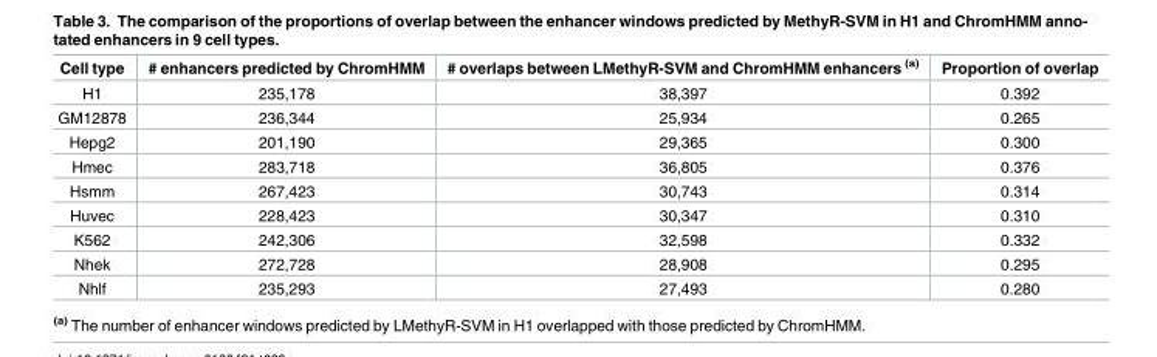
<table><thead><tr><td>Cell type</td><td># enhancers predicted by ChromHMM</td><td># overlaps between LMethyR-SVM and ChromHMM enhancers <sup>(a)</sup></td><td>Proportion of overlap</td></tr></thead><tbody><tr><td>H1</td><td>235,178</td><td>38,397</td><td>0.392</td></tr><tr><td>GM12878</td><td>236,344</td><td>25,934</td><td>0.265</td></tr><tr><td>Hepg2</td><td>201,190</td><td>29,365</td><td>0.300</td></tr><tr><td>Hmec</td><td>283,718</td><td>36,805</td><td>0.376</td></tr><tr><td>Hsmm</td><td>267,423</td><td>30,743</td><td>0.314</td></tr><tr><td>Huvec</td><td>228,423</td><td>30,347</td><td>0.310</td></tr><tr><td>K562</td><td>242,306</td><td>32,598</td><td>0.332</td></tr><tr><td>Nhek</td><td>272,728</td><td>28,908</td><td>0.295</td></tr><tr><td>Nhlf</td><td>235,293</td><td>27,493</td><td>0.280</td></tr></tbody></table>